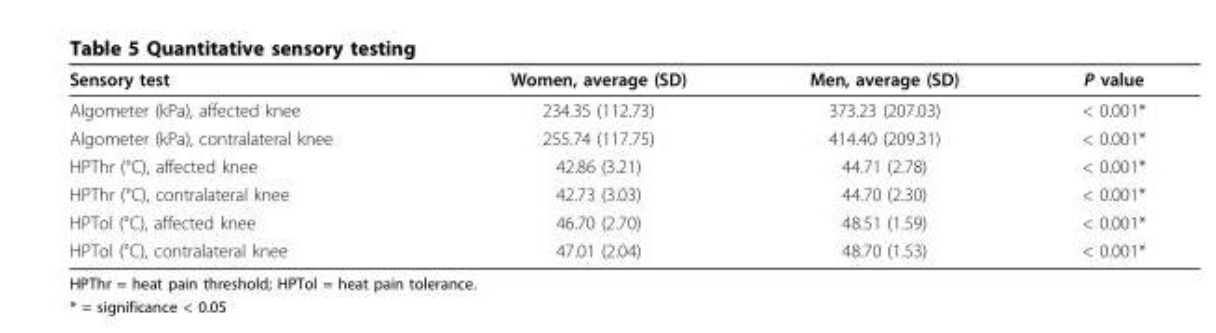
<table><thead><tr><td>Sensory test</td><td>Women, average (SD)</td><td>Men, average (SD)</td><td>P value</td></tr></thead><tbody><tr><td>Algometer (kPa), affected knee</td><td>234.35 (112.73)</td><td>373.23 (207.03)</td><td>&lt; 0.001*</td></tr><tr><td>Algometer (kPa), contralateral knee</td><td>255.74 (117.75)</td><td>414.40 (209.31)</td><td>&lt; 0.001*</td></tr><tr><td>HPThr (°C), affected knee</td><td>42.86 (3.21)</td><td>44.71 (2.78)</td><td>&lt; 0.001*</td></tr><tr><td>HPThr (°C), contralateral knee</td><td>42.73 (3.03)</td><td>44.70 (2.30)</td><td>&lt; 0.001*</td></tr><tr><td>HPTol (°C), affected knee</td><td>46.70 (2.70)</td><td>48.51 (1.59)</td><td>&lt; 0.001*</td></tr><tr><td>HPTol (°C), contralateral knee</td><td>47.01 (2.04)</td><td>48.70 (1.53)</td><td>&lt; 0.001*</td></tr></tbody></table>